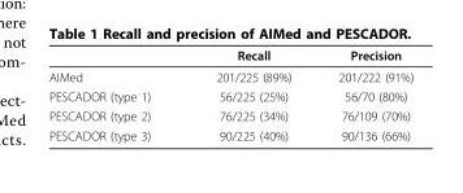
<table><thead><tr><td></td><td>Recall</td><td>Precision</td></tr></thead><tbody><tr><td>AIMed</td><td>201/225 (89%)</td><td>201/222 (91%)</td></tr><tr><td>PESCADOR (type 1)</td><td>56/225 (25%)</td><td>56/70 (80%)</td></tr><tr><td>PESCADOR (type 2)</td><td>76/225 (34%)</td><td>76/109 (70%)</td></tr><tr><td>PESCADOR (type 3)</td><td>90/225 (40%)</td><td>90/136 (66%)</td></tr></tbody></table>